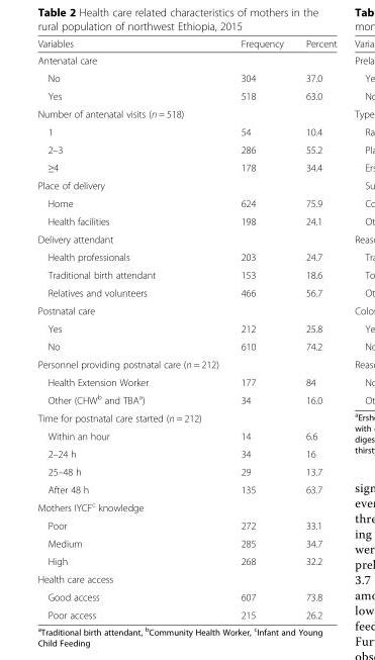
<table><thead><tr><td>Variables</td><td>Frequency</td><td>Percent</td></tr></thead><tbody><tr><td colspan="3">Antenatal care</td></tr><tr><td>No</td><td>304</td><td>37.0</td></tr><tr><td>Yes</td><td>518</td><td>63.0</td></tr><tr><td colspan="3">Number of antenatal visits (n = 518)</td></tr><tr><td>1</td><td>54</td><td>10.4</td></tr><tr><td>2–3</td><td>286</td><td>55.2</td></tr><tr><td>≥4</td><td>178</td><td>34.4</td></tr><tr><td colspan="3">Place of delivery</td></tr><tr><td>Home</td><td>624</td><td>75.9</td></tr><tr><td>Health facilities</td><td>198</td><td>24.1</td></tr><tr><td colspan="3">Delivery attendant</td></tr><tr><td>Health professionals</td><td>203</td><td>24.7</td></tr><tr><td>Traditional birth attendant</td><td>153</td><td>18.6</td></tr><tr><td>Relatives and volunteers</td><td>466</td><td>56.7</td></tr><tr><td colspan="3">Postnatal care</td></tr><tr><td>Yes</td><td>212</td><td>25.8</td></tr><tr><td>No</td><td>610</td><td>74.2</td></tr><tr><td colspan="3">Personnel providing postnatal care (n = 212)</td></tr><tr><td>Health Extension Worker</td><td>177</td><td>84</td></tr><tr><td>Other (CHW<sup>b</sup> and TBA<sup>a</sup>)</td><td>34</td><td>16.0</td></tr><tr><td colspan="3">Time for postnatal care started (n = 212)</td></tr><tr><td>Within an hour</td><td>14</td><td>6.6</td></tr><tr><td>2–24 h</td><td>34</td><td>16</td></tr><tr><td>25–48 h</td><td>29</td><td>13.7</td></tr><tr><td>After 48 h</td><td>135</td><td>63.7</td></tr><tr><td colspan="3">Mothers IYCF<sup>c</sup> knowledge</td></tr><tr><td>Poor</td><td>272</td><td>33.1</td></tr><tr><td>Medium</td><td>285</td><td>34.7</td></tr><tr><td>High</td><td>268</td><td>32.2</td></tr><tr><td colspan="3">Health care access</td></tr><tr><td>Good access</td><td>607</td><td>73.8</td></tr><tr><td>Poor access</td><td>215</td><td>26.2</td></tr></tbody></table>